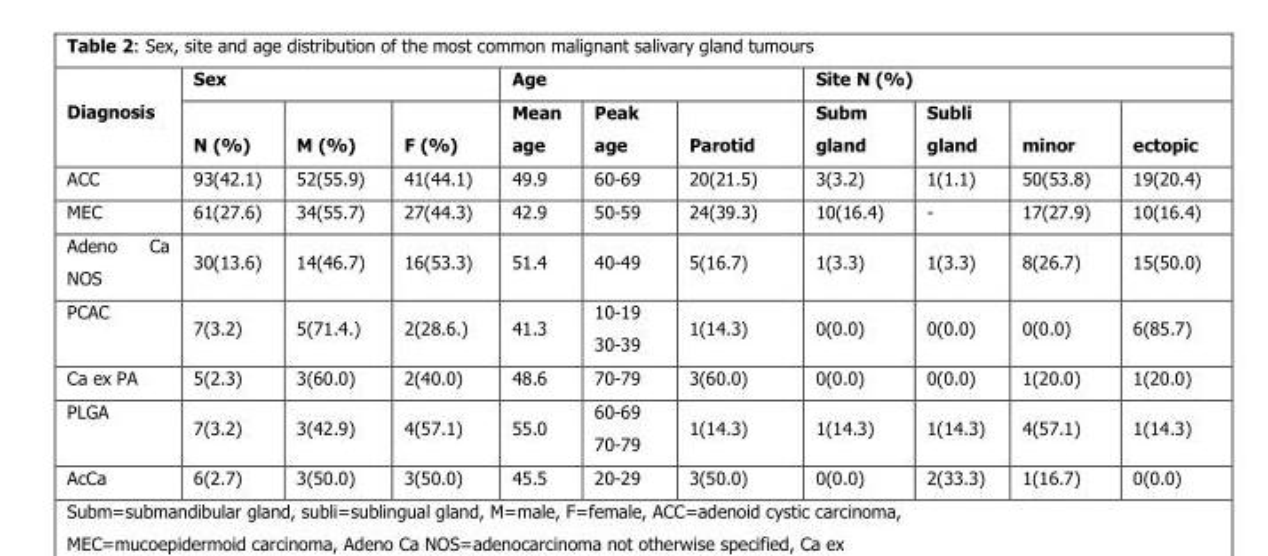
<table><thead><tr><td rowspan="2">Diagnosis</td><td colspan="3">Sex</td><td colspan="3">Age</td><td colspan="4">Site N (%)</td></tr><tr><td>N (%)</td><td>M (%)</td><td>F (%)</td><td>Mean age</td><td>Peak age</td><td>Parotid</td><td>Subm gland</td><td>Subli gland</td><td>minor</td><td>ectopic</td></tr></thead><tbody><tr><td>ACC</td><td>93(42.1)</td><td>52(55.9)</td><td>41(44.1)</td><td>49.9</td><td>60-69</td><td>20(21.5)</td><td>3(3.2)</td><td>1(1.1)</td><td>50(53.8)</td><td>19(20.4)</td></tr><tr><td>MEC</td><td>61(27.6)</td><td>34(55.7)</td><td>27(44.3)</td><td>42.9</td><td>50-59</td><td>24(39.3)</td><td>10(16.4)</td><td>-</td><td>17(27.9)</td><td>10(16.4)</td></tr><tr><td>Adeno Ca NOS</td><td>30(13.6)</td><td>14(46.7)</td><td>16(53.3)</td><td>51.4</td><td>40-49</td><td>5(16.7)</td><td>1(3.3)</td><td>1(3.3)</td><td>8(26.7)</td><td>15(50.0)</td></tr><tr><td>PCAC</td><td>7(3.2)</td><td>5(71.4.)</td><td>2(28.6.)</td><td>41.3</td><td>10-19 30-39</td><td>1(14.3)</td><td>0(0.0)</td><td>0(0.0)</td><td>0(0.0)</td><td>6(85.7)</td></tr><tr><td>Ca ex PA</td><td>5(2.3)</td><td>3(60.0)</td><td>2(40.0)</td><td>48.6</td><td>70-79</td><td>3(60.0)</td><td>0(0.0)</td><td>0(0.0)</td><td>1(20.0)</td><td>1(20.0)</td></tr><tr><td>PLGA</td><td>7(3.2)</td><td>3(42.9)</td><td>4(57.1)</td><td>55.0</td><td>60-69 70-79</td><td>1(14.3)</td><td>1(14.3)</td><td>1(14.3)</td><td>4(57.1)</td><td>1(14.3)</td></tr><tr><td>AcCa</td><td>6(2.7)</td><td>3(50.0)</td><td>3(50.0)</td><td>45.5</td><td>20-29</td><td>3(50.0)</td><td>0(0.0)</td><td>2(33.3)</td><td>1(16.7)</td><td>0(0.0)</td></tr></tbody></table>